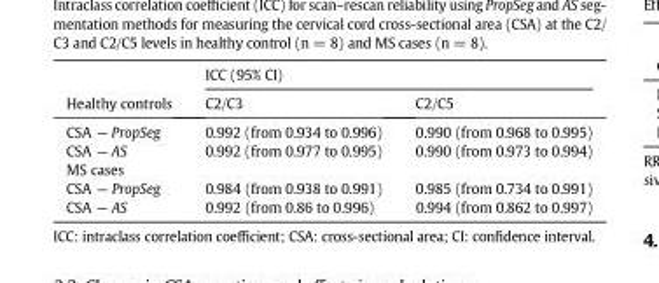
<table><thead><tr><td rowspan="2">Healthy controls</td><td colspan="2">ICC (95% CI)</td></tr><tr><td>C2/C3</td><td>C2/C5</td></tr></thead><tbody><tr><td>CSA — PropSeg</td><td>0.992 (from 0.934 to 0.996)</td><td>0.990 (from 0.968 to 0.995)</td></tr><tr><td>CSA — AS</td><td>0.992 (from 0.977 to 0.995)</td><td>0.990 (from 0.973 to 0.994)</td></tr><tr><td colspan="3">MS cases</td></tr><tr><td>CSA — PropSeg</td><td>0.984 (from 0.938 to 0.991)</td><td>0.985 (from 0.734 to 0.991)</td></tr><tr><td>CSA — AS</td><td>0.992 (from 0.86 to 0.996)</td><td>0.994 (from 0.862 to 0.997)</td></tr></tbody></table>